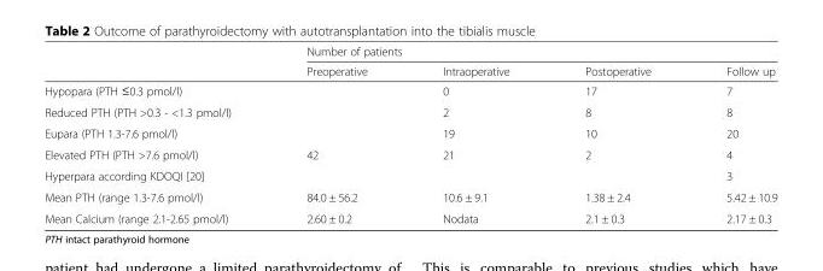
<table><thead><tr><td rowspan="2"></td><td colspan="4">Number of patients</td></tr><tr><td>Preoperative</td><td>Intraoperative</td><td>Postoperative</td><td>Follow up</td></tr></thead><tbody><tr><td>Hypopara (PTH ≤0.3 pmol/l)</td><td rowspan="3"></td><td>0</td><td>17</td><td>7</td></tr><tr><td>Reduced PTH (PTH &gt;0.3 - &lt;1.3 pmol/l)</td><td>2</td><td>8</td><td>8</td></tr><tr><td>Eupara (PTH 1.3-7.6 pmol/l)</td><td>19</td><td>10</td><td>20</td></tr><tr><td>Elevated PTH (PTH &gt;7.6 pmol/l)</td><td>42</td><td>21</td><td>2</td><td>4</td></tr><tr><td>Hyperpara according KDOQI [20]</td><td colspan="3"></td><td>3</td></tr><tr><td>Mean PTH (range 1.3-7.6 pmol/l)</td><td>84.0 ± 56.2</td><td>10.6 ± 9.1</td><td>1.38 ± 2.4</td><td>5.42 ± 10.9</td></tr><tr><td>Mean Calcium (range 2.1-2.65 pmol/l)</td><td>2.60 ± 0.2</td><td>Nodata</td><td>2.1 ± 0.3</td><td>2.17 ± 0.3</td></tr></tbody></table>